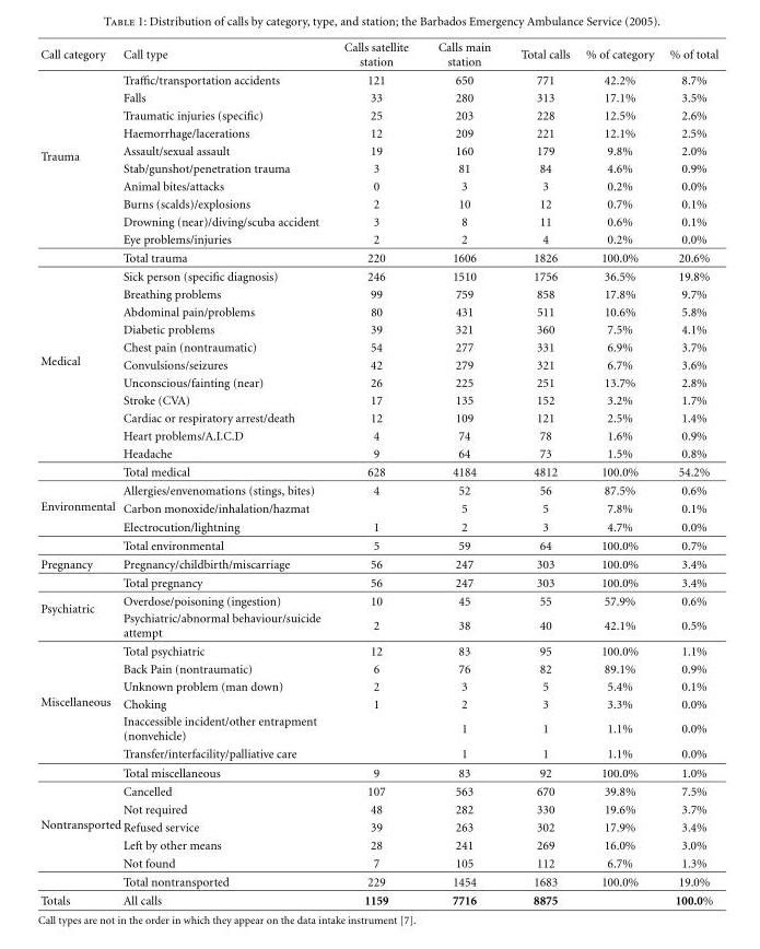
<table><thead><tr><td>Call category</td><td>Call type</td><td>Calls satellite station</td><td>Calls main station</td><td>Total calls</td><td>% of category</td><td>% of total</td></tr></thead><tbody><tr><td rowspan="11">Trauma</td><td>Traffic/transportation accidents</td><td>121</td><td>650</td><td>771</td><td>42.2%</td><td>8.7%</td></tr><tr><td>Falls</td><td>33</td><td>280</td><td>313</td><td>17.1%</td><td>3.5%</td></tr><tr><td>Traumatic injuries (specific)</td><td>25</td><td>203</td><td>228</td><td>12.5%</td><td>2.6%</td></tr><tr><td>Haemorrhage/lacerations</td><td>12</td><td>209</td><td>221</td><td>12.1%</td><td>2.5%</td></tr><tr><td>Assault/sexual assault</td><td>19</td><td>160</td><td>179</td><td>9.8%</td><td>2.0%</td></tr><tr><td>Stab/gunshot/penetration trauma</td><td>3</td><td>81</td><td>84</td><td>4.6%</td><td>0.9%</td></tr><tr><td>Animal bites/attacks</td><td>0</td><td>3</td><td>3</td><td>0.2%</td><td>0.0%</td></tr><tr><td>Burns (scalds)/explosions</td><td>2</td><td>10</td><td>12</td><td>0.7%</td><td>0.1%</td></tr><tr><td>Drowning (near)/diving/scuba accident</td><td>3</td><td>8</td><td>11</td><td>0.6%</td><td>0.1%</td></tr><tr><td>Eye problems/injuries</td><td>2</td><td>2</td><td>4</td><td>0.2%</td><td>0.0%</td></tr><tr><td>Total trauma</td><td>220</td><td>1606</td><td>1826</td><td>100.0%</td><td>20.6%</td></tr><tr><td rowspan="12">Medical</td><td>Sick person (specific diagnosis)</td><td>246</td><td>1510</td><td>1756</td><td>36.5%</td><td>19.8%</td></tr><tr><td>Breathing problems</td><td>99</td><td>759</td><td>858</td><td>17.8%</td><td>9.7%</td></tr><tr><td>Abdominal pain/problems</td><td>80</td><td>431</td><td>511</td><td>10.6%</td><td>5.8%</td></tr><tr><td>Diabetic problems</td><td>39</td><td>321</td><td>360</td><td>7.5%</td><td>4.1%</td></tr><tr><td>Chest pain (nontraumatic)</td><td>54</td><td>277</td><td>331</td><td>6.9%</td><td>3.7%</td></tr><tr><td>Convulsions/seizures</td><td>42</td><td>279</td><td>321</td><td>6.7%</td><td>3.6%</td></tr><tr><td>Unconscious/fainting (near)</td><td>26</td><td>225</td><td>251</td><td>13.7%</td><td>2.8%</td></tr><tr><td>Stroke (CVA)</td><td>17</td><td>135</td><td>152</td><td>3.2%</td><td>1.7%</td></tr><tr><td>Cardiac or respiratory arrest/death</td><td>12</td><td>109</td><td>121</td><td>2.5%</td><td>1.4%</td></tr><tr><td>Heart problems/A.I.C.D</td><td>4</td><td>74</td><td>78</td><td>1.6%</td><td>0.9%</td></tr><tr><td>Headache</td><td>9</td><td>64</td><td>73</td><td>1.5%</td><td>0.8%</td></tr><tr><td>Total medical</td><td>628</td><td>4184</td><td>4812</td><td>100.0%</td><td>54.2%</td></tr><tr><td rowspan="4">Environmental</td><td>Allergies/envenomations (stings, bites)</td><td>4</td><td>52</td><td>56</td><td>87.5%</td><td>0.6%</td></tr><tr><td>Carbon monoxide/inhalation/hazmat</td><td></td><td>5</td><td>5</td><td>7.8%</td><td>0.1%</td></tr><tr><td>Electrocution/lightning</td><td>1</td><td>2</td><td>3</td><td>4.7%</td><td>0.0%</td></tr><tr><td>Total environmental</td><td>5</td><td>59</td><td>64</td><td>100.0%</td><td>0.7%</td></tr><tr><td rowspan="2">Pregnancy</td><td>Pregnancy/childbirth/miscarriage</td><td>56</td><td>247</td><td>303</td><td>100.0%</td><td>3.4%</td></tr><tr><td>Total pregnancy</td><td>56</td><td>247</td><td>303</td><td>100.0%</td><td>3.4%</td></tr><tr><td rowspan="3">Psychiatric</td><td>Overdose/poisoning (ingestion)</td><td>10</td><td>45</td><td>55</td><td>57.9%</td><td>0.6%</td></tr><tr><td>Psychiatric/abnormal behaviour/suicide attempt</td><td>2</td><td>38</td><td>40</td><td>42.1%</td><td>0.5%</td></tr><tr><td>Total psychiatric</td><td>12</td><td>83</td><td>95</td><td>100.0%</td><td>1.1%</td></tr><tr><td rowspan="6">Miscellaneous</td><td>Back Pain (nontraumatic)</td><td>6</td><td>76</td><td>82</td><td>89.1%</td><td>0.9%</td></tr><tr><td>Unknown problem (man down)</td><td>2</td><td>3</td><td>5</td><td>5.4%</td><td>0.1%</td></tr><tr><td>Choking</td><td>1</td><td>2</td><td>3</td><td>3.3%</td><td>0.0%</td></tr><tr><td>Inaccessible incident/other entrapment (nonvehicle)</td><td></td><td>1</td><td>1</td><td>1.1%</td><td>0.0%</td></tr><tr><td>Transfer/interfacility/palliative care</td><td></td><td>1</td><td>1</td><td>1.1%</td><td>0.0%</td></tr><tr><td>Total miscellaneous</td><td>9</td><td>83</td><td>92</td><td>100.0%</td><td>1.0%</td></tr><tr><td rowspan="6">Nontransported</td><td>Cancelled</td><td>107</td><td>563</td><td>670</td><td>39.8%</td><td>7.5%</td></tr><tr><td>Not required</td><td>48</td><td>282</td><td>330</td><td>19.6%</td><td>3.7%</td></tr><tr><td>Refused service</td><td>39</td><td>263</td><td>302</td><td>17.9%</td><td>3.4%</td></tr><tr><td>Left by other means</td><td>28</td><td>241</td><td>269</td><td>16.0%</td><td>3.0%</td></tr><tr><td>Not found</td><td>7</td><td>105</td><td>112</td><td>6.7%</td><td>1.3%</td></tr><tr><td>Total nontransported</td><td>229</td><td>1454</td><td>1683</td><td>100.0%</td><td>19.0%</td></tr><tr><td>Totals</td><td>All calls</td><td>1159</td><td>7716</td><td>8875</td><td></td><td>100.0%</td></tr></tbody></table>